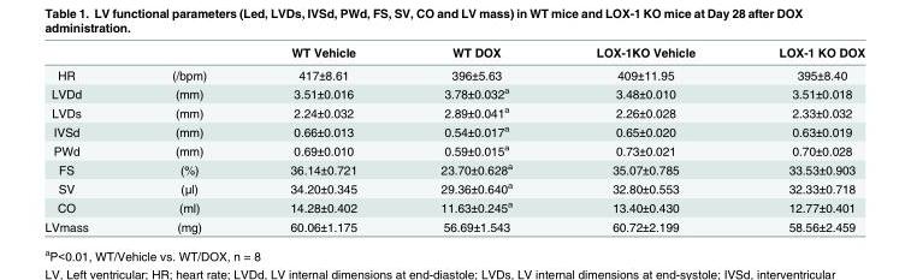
<table><thead><tr><td></td><td></td><td>WT Vehicle</td><td>WT DOX</td><td>LOX-1KO Vehicle</td><td>LOX-1 KO DOX</td></tr></thead><tbody><tr><td>HR</td><td>(/bpm)</td><td>417±8.61</td><td>396±5.63</td><td>409±11.95</td><td>395±8.40</td></tr><tr><td>LVDd</td><td>(mm)</td><td>3.51±0.016</td><td>3.78±0.032<sup>a</sup></td><td>3.48±0.010</td><td>3.51±0.018</td></tr><tr><td>LVDs</td><td>(mm)</td><td>2.24±0.032</td><td>2.89±0.041<sup>a</sup></td><td>2.26±0.028</td><td>2.33±0.032</td></tr><tr><td>IVSd</td><td>(mm)</td><td>0.66±0.013</td><td>0.54±0.017<sup>a</sup></td><td>0.65±0.020</td><td>0.63±0.019</td></tr><tr><td>PWd</td><td>(mm)</td><td>0.69±0.010</td><td>0.59±0.015<sup>a</sup></td><td>0.73±0.021</td><td>0.70±0.028</td></tr><tr><td>FS</td><td>(%)</td><td>36.14±0.721</td><td>23.70±0.628<sup>a</sup></td><td>35.07±0.785</td><td>33.53±0.903</td></tr><tr><td>SV</td><td>(μl)</td><td>34.20±0.345</td><td>29.36±0.640<sup>a</sup></td><td>32.80±0.553</td><td>32.33±0.718</td></tr><tr><td>CO</td><td>(ml)</td><td>14.28±0.402</td><td>11.63±0.245<sup>a</sup></td><td>13.40±0.430</td><td>12.77±0.401</td></tr><tr><td>LVmass</td><td>(mg)</td><td>60.06±1.175</td><td>56.69±1.543</td><td>60.72±2.199</td><td>58.56±2.459</td></tr></tbody></table>